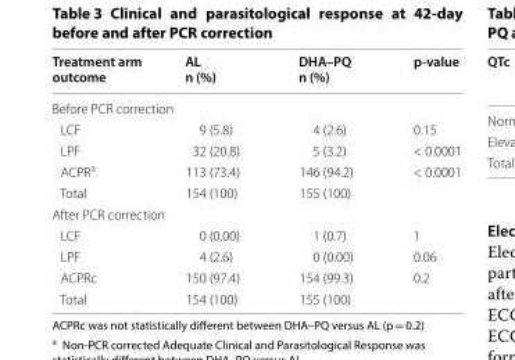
<table><thead><tr><td>Treatment arm outcome</td><td>AL n (%)</td><td>DHA–PQ n (%)</td><td>p‑value</td></tr></thead><tbody><tr><td colspan="4">Before PCR correction</td></tr><tr><td>LCF</td><td>9 (5.8)</td><td>4 (2.6)</td><td>0.15</td></tr><tr><td>LPF</td><td>32 (20.8)</td><td>5 (3.2)</td><td>&lt; 0.0001</td></tr><tr><td>ACPR<sup>a</sup></td><td>113 (73.4)</td><td>146 (94.2)</td><td>&lt; 0.0001</td></tr><tr><td>Total</td><td>154 (100)</td><td>155 (100)</td><td></td></tr><tr><td colspan="4">After PCR correction</td></tr><tr><td>LCF</td><td>0 (0.00)</td><td>1 (0.7)</td><td>1</td></tr><tr><td>LPF</td><td>4 (2.6)</td><td>0 (0.00)</td><td>0.06</td></tr><tr><td>ACPRc</td><td>150 (97.4)</td><td>154 (99.3)</td><td>0.2</td></tr><tr><td>Total</td><td>154 (100)</td><td>155 (100)</td><td></td></tr></tbody></table>